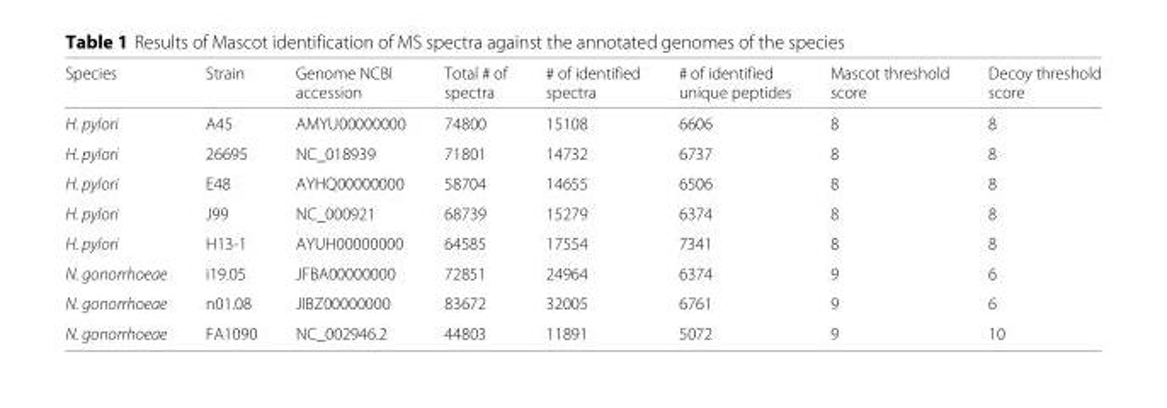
<table><thead><tr><td rowspan="2">Species</td><td rowspan="2">Strain</td><td rowspan="2">Genome NCBI accession</td><td rowspan="2">Total # of spectra</td><td rowspan="2"># of identified spectra</td><td rowspan="2"># of identified unique peptides</td><td rowspan="2">Mascot threshold score</td><td rowspan="2">Decoy threshold score</td></tr><tr></tr></thead><tbody><tr><td>H. pylori</td><td>A45</td><td>AMYU00000000</td><td>74800</td><td>15108</td><td>6606</td><td>8</td><td>8</td></tr><tr><td>H. pylori</td><td>26695</td><td>NC_018939</td><td>71801</td><td>14732</td><td>6737</td><td>8</td><td>8</td></tr><tr><td>H. pylori</td><td>E48</td><td>AYHQ00000000</td><td>58704</td><td>14655</td><td>6506</td><td>8</td><td>8</td></tr><tr><td>H. pylori</td><td>J99</td><td>NC_000921</td><td>68739</td><td>15279</td><td>6374</td><td>8</td><td>8</td></tr><tr><td>H. pylori</td><td>H13-1</td><td>AYUH00000000</td><td>64585</td><td>17554</td><td>7341</td><td>8</td><td>8</td></tr><tr><td>N. gonorrhoeae</td><td>i19.05</td><td>JFBA00000000</td><td>72851</td><td>24964</td><td>6374</td><td>9</td><td>6</td></tr><tr><td>N. gonorrhoeae</td><td>n01.08</td><td>JIBZ00000000</td><td>83672</td><td>32005</td><td>6761</td><td>9</td><td>6</td></tr><tr><td>N. gonorrhoeae</td><td>FA1090</td><td>NC_002946.2</td><td>44803</td><td>11891</td><td>5072</td><td>9</td><td>10</td></tr></tbody></table>